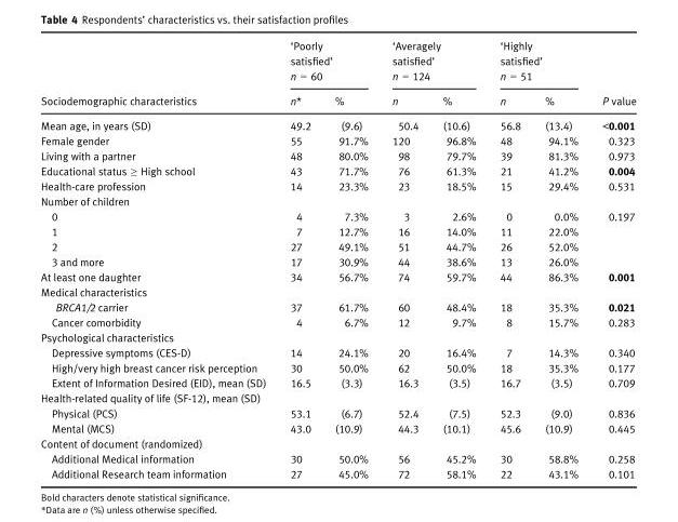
<table><thead><tr><td rowspan="2">Sociodemographic characteristics</td><td colspan="2">‘Poorly satisfied’ n = 60</td><td colspan="2">‘Averagely satisfied’ n = 124</td><td colspan="2">‘Highly satisfied’ n = 51</td><td rowspan="2">P value</td></tr><tr><td>n*</td><td>%</td><td>n</td><td>%</td><td>n</td><td>%</td></tr></thead><tbody><tr><td>Mean age, in years (SD)</td><td>49.2</td><td>(9.6)</td><td>50.4</td><td>(10.6)</td><td>56.8</td><td>(13.4)</td><td>&lt;0.001</td></tr><tr><td>Female gender</td><td>55</td><td>91.7%</td><td>120</td><td>96.8%</td><td>48</td><td>94.1%</td><td>0.323</td></tr><tr><td>Living with a partner</td><td>48</td><td>80.0%</td><td>98</td><td>79.7%</td><td>39</td><td>81.3%</td><td>0.973</td></tr><tr><td>Educational status ≥ High school</td><td>43</td><td>71.7%</td><td>76</td><td>61.3%</td><td>21</td><td>41.2%</td><td>0.004</td></tr><tr><td>Health-care profession</td><td>14</td><td>23.3%</td><td>23</td><td>18.5%</td><td>15</td><td>29.4%</td><td>0.531</td></tr><tr><td colspan="8">Number of children</td></tr><tr><td>0</td><td>4</td><td>7.3%</td><td>3</td><td>2.6%</td><td>0</td><td>0.0%</td><td>0.197</td></tr><tr><td>1</td><td>7</td><td>12.7%</td><td>16</td><td>14.0%</td><td>11</td><td>22.0%</td><td></td></tr><tr><td>2</td><td>27</td><td>49.1%</td><td>51</td><td>44.7%</td><td>26</td><td>52.0%</td><td></td></tr><tr><td>3 and more</td><td>17</td><td>30.9%</td><td>44</td><td>38.6%</td><td>13</td><td>26.0%</td><td></td></tr><tr><td>At least one daughter</td><td>34</td><td>56.7%</td><td>74</td><td>59.7%</td><td>44</td><td>86.3%</td><td>0.001</td></tr><tr><td colspan="8">Medical characteristics</td></tr><tr><td>BRCA1/2 carrier</td><td>37</td><td>61.7%</td><td>60</td><td>48.4%</td><td>18</td><td>35.3%</td><td>0.021</td></tr><tr><td>Cancer comorbidity</td><td>4</td><td>6.7%</td><td>12</td><td>9.7%</td><td>8</td><td>15.7%</td><td>0.283</td></tr><tr><td colspan="8">Psychological characteristics</td></tr><tr><td>Depressive symptoms (CES-D)</td><td>14</td><td>24.1%</td><td>20</td><td>16.4%</td><td>7</td><td>14.3%</td><td>0.340</td></tr><tr><td>High/very high breast cancer risk perception</td><td>30</td><td>50.0%</td><td>62</td><td>50.0%</td><td>18</td><td>35.3%</td><td>0.177</td></tr><tr><td>Extent of Information Desired (EID), mean (SD)</td><td>16.5</td><td>(3.3)</td><td>16.3</td><td>(3.5)</td><td>16.7</td><td>(3.5)</td><td>0.709</td></tr><tr><td colspan="8">Health-related quality of life (SF-12), mean (SD)</td></tr><tr><td>Physical (PCS)</td><td>53.1</td><td>(6.7)</td><td>52.4</td><td>(7.5)</td><td>52.3</td><td>(9.0)</td><td>0.836</td></tr><tr><td>Mental (MCS)</td><td>43.0</td><td>(10.9)</td><td>44.3</td><td>(10.1)</td><td>45.6</td><td>(10.9)</td><td>0.445</td></tr><tr><td colspan="8">Content of document (randomized)</td></tr><tr><td>Additional Medical information</td><td>30</td><td>50.0%</td><td>56</td><td>45.2%</td><td>30</td><td>58.8%</td><td>0.258</td></tr><tr><td>Additional Research team information</td><td>27</td><td>45.0%</td><td>72</td><td>58.1%</td><td>22</td><td>43.1%</td><td>0.101</td></tr></tbody></table>